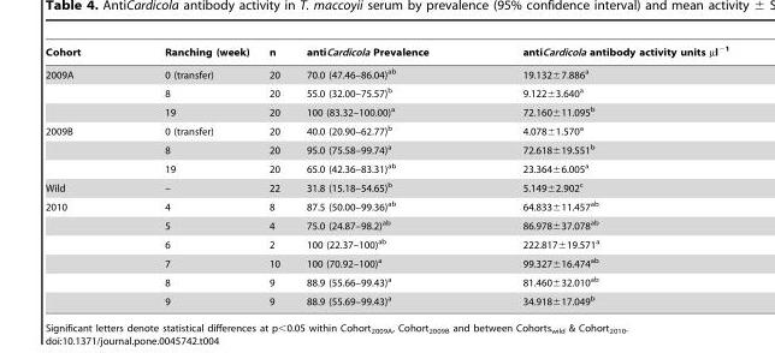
<table><thead><tr><td>Cohort</td><td>Ranching (week)</td><td>n</td><td>antiCardicola Prevalence</td><td>antiCardicola antibody activity units µl<sup>−1</sup></td></tr></thead><tbody><tr><td rowspan="3">2009A</td><td>0 (transfer)</td><td>20</td><td>70.0 (47.46–86.04)<sup>ab</sup></td><td>19.132±7.886<sup>a</sup></td></tr><tr><td>8</td><td>20</td><td>55.0 (32.00–75.57)<sup>b</sup></td><td>9.122±3.640<sup>a</sup></td></tr><tr><td>19</td><td>20</td><td>100 (83.32–100.00)<sup>a</sup></td><td>72.160±11.095<sup>b</sup></td></tr><tr><td rowspan="3">2009B</td><td>0 (transfer)</td><td>20</td><td>40.0 (20.90–62.77)<sup>b</sup></td><td>4.078±1.570<sup>a</sup></td></tr><tr><td>8</td><td>20</td><td>95.0 (75.58–99.74)<sup>a</sup></td><td>72.618±19.551<sup>b</sup></td></tr><tr><td>19</td><td>20</td><td>65.0 (42.36–83.31)<sup>ab</sup></td><td>23.364±6.005<sup>a</sup></td></tr><tr><td>Wild</td><td>–</td><td>22</td><td>31.8 (15.18–54.65)<sup>b</sup></td><td>5.149±2.902<sup>c</sup></td></tr><tr><td rowspan="6">2010</td><td>4</td><td>8</td><td>87.5 (50.00–99.36)<sup>ab</sup></td><td>64.833±11.457<sup>ab</sup></td></tr><tr><td>5</td><td>4</td><td>75.0 (24.87–98.2)<sup>ab</sup></td><td>86.978±37.078<sup>ab</sup></td></tr><tr><td>6</td><td>2</td><td>100 (22.37–100)<sup>ab</sup></td><td>222.817±19.571<sup>a</sup></td></tr><tr><td>7</td><td>10</td><td>100 (70.92–100)<sup>a</sup></td><td>99.327±16.474<sup>ab</sup></td></tr><tr><td>8</td><td>9</td><td>88.9 (55.66–99.43)<sup>a</sup></td><td>81.460±32.010<sup>ab</sup></td></tr><tr><td>9</td><td>9</td><td>88.9 (55.69–99.43)<sup>a</sup></td><td>34.918±17.049<sup>b</sup></td></tr></tbody></table>